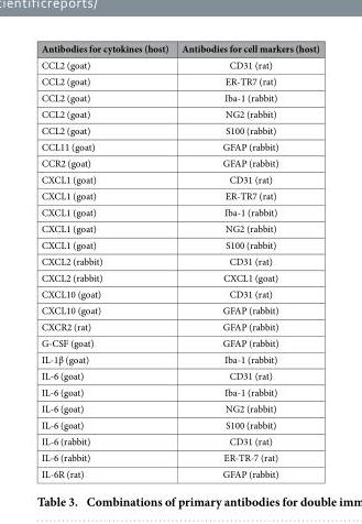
<table><thead><tr><td>Antibodies for cytokines (host)</td><td>Antibodies for cell markers (host)</td></tr></thead><tbody><tr><td>CCL2 (goat)</td><td>CD31 (rat)</td></tr><tr><td>CCL2 (goat)</td><td>ER-TR7 (rat)</td></tr><tr><td>CCL2 (goat)</td><td>Iba-1 (rabbit)</td></tr><tr><td>CCL2 (goat)</td><td>NG2 (rabbit)</td></tr><tr><td>CCL2 (goat)</td><td>S100 (rabbit)</td></tr><tr><td>CCL11 (goat)</td><td>GFAP (rabbit)</td></tr><tr><td>CCR2 (goat)</td><td>GFAP (rabbit)</td></tr><tr><td>CXCL1 (goat)</td><td>CD31 (rat)</td></tr><tr><td>CXCL1 (goat)</td><td>ER-TR7 (rat)</td></tr><tr><td>CXCL1 (goat)</td><td>Iba-1 (rabbit)</td></tr><tr><td>CXCL1 (goat)</td><td>NG2 (rabbit)</td></tr><tr><td>CXCL1 (goat)</td><td>S100 (rabbit)</td></tr><tr><td>CXCL2 (rabbit)</td><td>CD31 (rat)</td></tr><tr><td>CXCL2 (rabbit)</td><td>CXCL1 (goat)</td></tr><tr><td>CXCL10 (goat)</td><td>CD31 (rat)</td></tr><tr><td>CXCL10 (goat)</td><td>GFAP (rabbit)</td></tr><tr><td>CXCR2 (rat)</td><td>GFAP (rabbit)</td></tr><tr><td>G-CSF (goat)</td><td>GFAP (rabbit)</td></tr><tr><td>IL-1β (goat)</td><td>Iba-1 (rabbit)</td></tr><tr><td>IL-6 (goat)</td><td>CD31 (rat)</td></tr><tr><td>IL-6 (goat)</td><td>Iba-1 (rabbit)</td></tr><tr><td>IL-6 (goat)</td><td>NG2 (rabbit)</td></tr><tr><td>IL-6 (goat)</td><td>S100 (rabbit)</td></tr><tr><td>IL-6 (rabbit)</td><td>CD31 (rat)</td></tr><tr><td>IL-6 (rabbit)</td><td>ER-TR-7 (rat)</td></tr><tr><td>IL-6R (rat)</td><td>GFAP (rabbit)</td></tr></tbody></table>